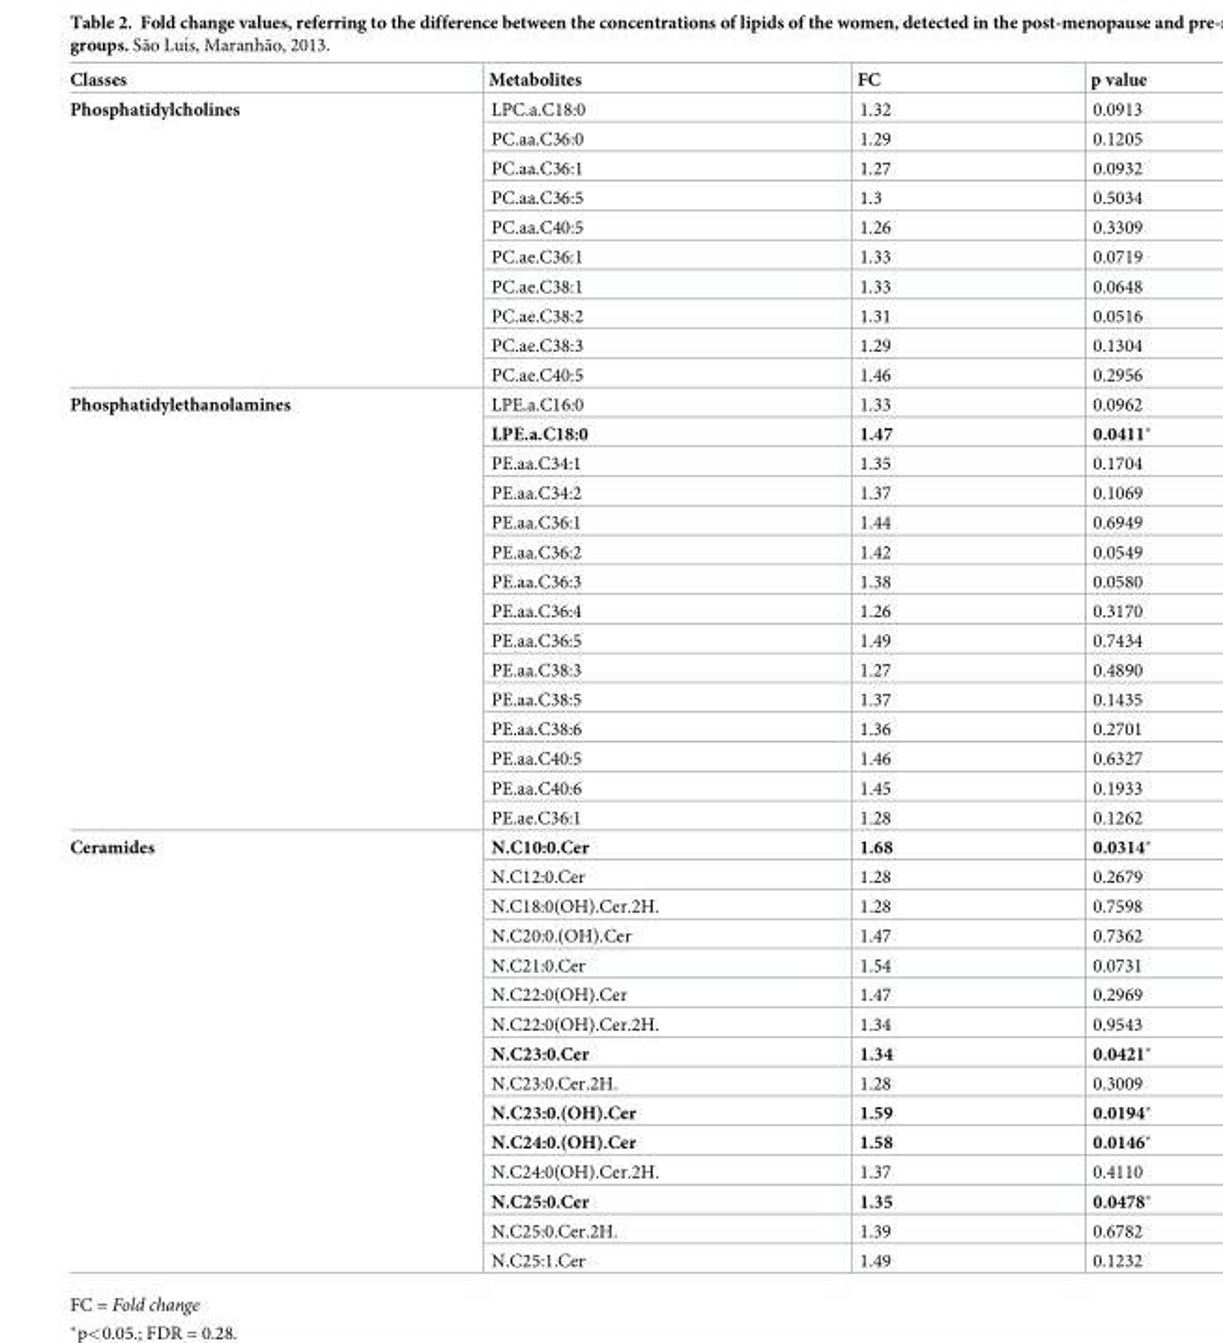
<table><thead><tr><td>Classes</td><td>Metabolites</td><td>FC</td><td>p value</td></tr></thead><tbody><tr><td rowspan="10">Phosphatidylcholines</td><td>LPC.a.C18:0</td><td>1.32</td><td>0.0913</td></tr><tr><td>PC.aa.C36:0</td><td>1.29</td><td>0.1205</td></tr><tr><td>PC.aa.C36:1</td><td>1.27</td><td>0.0932</td></tr><tr><td>PC.aa.C36:5</td><td>1.3</td><td>0.5034</td></tr><tr><td>PC.aa.C40:5</td><td>1.26</td><td>0.3309</td></tr><tr><td>PC.ae.C36:1</td><td>1.33</td><td>0.0719</td></tr><tr><td>PC.ae.C38:1</td><td>1.33</td><td>0.0648</td></tr><tr><td>PC.ae.C38:2</td><td>1.31</td><td>0.0516</td></tr><tr><td>PC.ae.C38:3</td><td>1.29</td><td>0.1304</td></tr><tr><td>PC.ae.C40:5</td><td>1.46</td><td>0.2956</td></tr><tr><td rowspan="15">Phosphatidylethanolamines</td><td>LPE.a.C16:0</td><td>1.33</td><td>0.0962</td></tr><tr><td>LPE.a.C18:0</td><td>1.47</td><td>0.0411*</td></tr><tr><td>PE.aa.C34:1</td><td>1.35</td><td>0.1704</td></tr><tr><td>PE.aa.C34:2</td><td>1.37</td><td>0.1069</td></tr><tr><td>PE.aa.C36:1</td><td>1.44</td><td>0.6949</td></tr><tr><td>PE.aa.C36:2</td><td>1.42</td><td>0.0549</td></tr><tr><td>PE.aa.C36:3</td><td>1.38</td><td>0.0580</td></tr><tr><td>PE.aa.C36:4</td><td>1.26</td><td>0.3170</td></tr><tr><td>PE.aa.C36:5</td><td>1.49</td><td>0.7434</td></tr><tr><td>PE.aa.C38:3</td><td>1.27</td><td>0.4890</td></tr><tr><td>PE.aa.C38:5</td><td>1.37</td><td>0.1435</td></tr><tr><td>PE.aa.C38:6</td><td>1.36</td><td>0.2701</td></tr><tr><td>PE.aa.C40:5</td><td>1.46</td><td>0.6327</td></tr><tr><td>PE.aa.C40:6</td><td>1.45</td><td>0.1933</td></tr><tr><td>PE.ae.C36:1</td><td>1.28</td><td>0.1262</td></tr><tr><td rowspan="15">Ceramides</td><td>N.C10:0.Cer</td><td>1.68</td><td>0.0314*</td></tr><tr><td>N.C12:0.Cer</td><td>1.28</td><td>0.2679</td></tr><tr><td>N.C18:0(OH).Cer.2H.</td><td>1.28</td><td>0.7598</td></tr><tr><td>N.C20:0.(OH).Cer</td><td>1.47</td><td>0.7362</td></tr><tr><td>N.C21:0.Cer</td><td>1.54</td><td>0.0731</td></tr><tr><td>N.C22:0(OH).Cer</td><td>1.47</td><td>0.2969</td></tr><tr><td>N.C22:0(OH).Cer.2H.</td><td>1.34</td><td>0.9543</td></tr><tr><td>N.C23:0.Cer</td><td>1.34</td><td>0.0421*</td></tr><tr><td>N.C23:0.Cer.2H.</td><td>1.28</td><td>0.3009</td></tr><tr><td>N.C23:0.(OH).Cer</td><td>1.59</td><td>0.0194*</td></tr><tr><td>N.C24:0.(OH).Cer</td><td>1.58</td><td>0.0146*</td></tr><tr><td>N.C24:0(OH).Cer.2H.</td><td>1.37</td><td>0.4110</td></tr><tr><td>N.C25:0.Cer</td><td>1.35</td><td>0.0478*</td></tr><tr><td>N.C25:0.Cer.2H.</td><td>1.39</td><td>0.6782</td></tr><tr><td>N.C25:1.Cer</td><td>1.49</td><td>0.1232</td></tr></tbody></table>